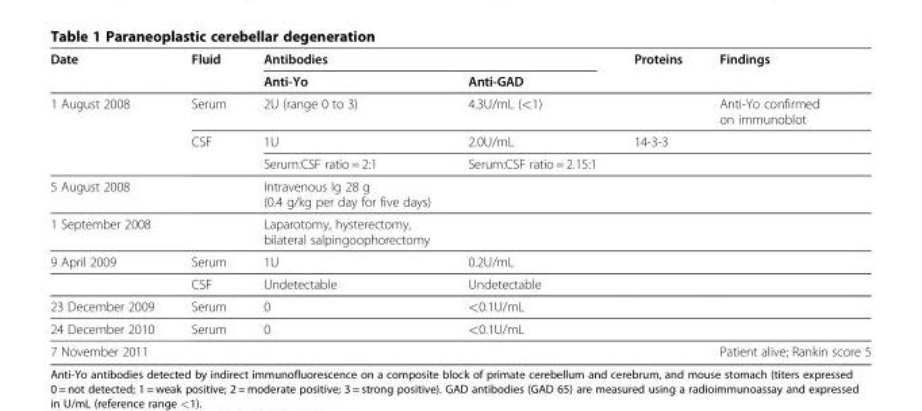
<table><thead><tr><td rowspan="2">Date</td><td rowspan="2">Fluid</td><td colspan="2">Antibodies</td><td rowspan="2">Proteins</td><td rowspan="2">Findings</td></tr><tr><td>Anti-Yo</td><td>Anti-GAD</td></tr></thead><tbody><tr><td rowspan="3">1 August 2008</td><td>Serum</td><td>2U (range 0 to 3)</td><td>4.3U/mL (&lt;1)</td><td></td><td>Anti-Yo confirmed on immunoblot</td></tr><tr><td rowspan="2">CSF</td><td>1U</td><td>2.0U/mL</td><td>14-3-3</td><td></td></tr><tr><td>Serum:CSF ratio = 2:1</td><td>Serum:CSF ratio = 2.15:1</td><td></td><td></td></tr><tr><td>5 August 2008</td><td></td><td>Intravenous Ig 28 g (0.4 g/kg per day for five days)</td><td></td><td></td><td></td></tr><tr><td>1 September 2008</td><td></td><td>Laparotomy, hysterectomy, bilateral salpingoophorectomy</td><td></td><td></td><td></td></tr><tr><td rowspan="2">9 April 2009</td><td>Serum</td><td>1U</td><td>0.2U/mL</td><td></td><td></td></tr><tr><td>CSF</td><td>Undetectable</td><td>Undetectable</td><td></td><td></td></tr><tr><td>23 December 2009</td><td>Serum</td><td>0</td><td>&lt;0.1U/mL</td><td></td><td></td></tr><tr><td>24 December 2010</td><td>Serum</td><td>0</td><td>&lt;0.1U/mL</td><td></td><td></td></tr><tr><td>7 November 2011</td><td></td><td></td><td></td><td></td><td>Patient alive; Rankin score 5</td></tr></tbody></table>